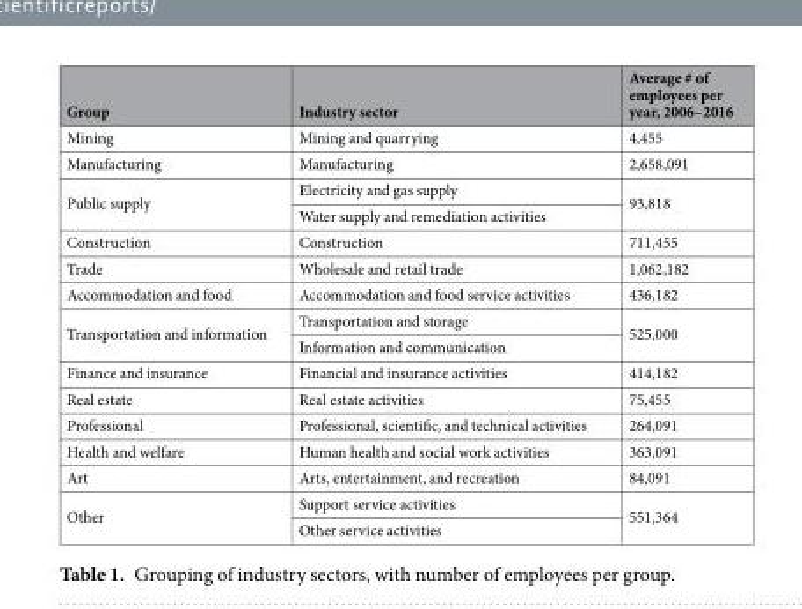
<table><thead><tr><td>Group</td><td>Industry sector</td><td>Average # of employees per year, 2006–2016</td></tr></thead><tbody><tr><td>Mining</td><td>Mining and quarrying</td><td>4,455</td></tr><tr><td>Manufacturing</td><td>Manufacturing</td><td>2,658,091</td></tr><tr><td rowspan="2">Public supply</td><td>Electricity and gas supply</td><td rowspan="2">93,818</td></tr><tr><td>Water supply and remediation activities</td></tr><tr><td>Construction</td><td>Construction</td><td>711,455</td></tr><tr><td>Trade</td><td>Wholesale and retail trade</td><td>1,062,182</td></tr><tr><td>Accommodation and food</td><td>Accommodation and food service activities</td><td>436,182</td></tr><tr><td rowspan="2">Transportation and information</td><td>Transportation and storage</td><td rowspan="2">525,000</td></tr><tr><td>Information and communication</td></tr><tr><td>Finance and insurance</td><td>Financial and insurance activities</td><td>414,182</td></tr><tr><td>Real estate</td><td>Real estate activities</td><td>75,455</td></tr><tr><td>Professional</td><td>Professional, scientific, and technical activities</td><td>264,091</td></tr><tr><td>Health and welfare</td><td>Human health and social work activities</td><td>363,091</td></tr><tr><td>Art</td><td>Arts, entertainment, and recreation</td><td>84,091</td></tr><tr><td rowspan="2">Other</td><td>Support service activities</td><td rowspan="2">551,364</td></tr><tr><td>Other service activities</td></tr></tbody></table>